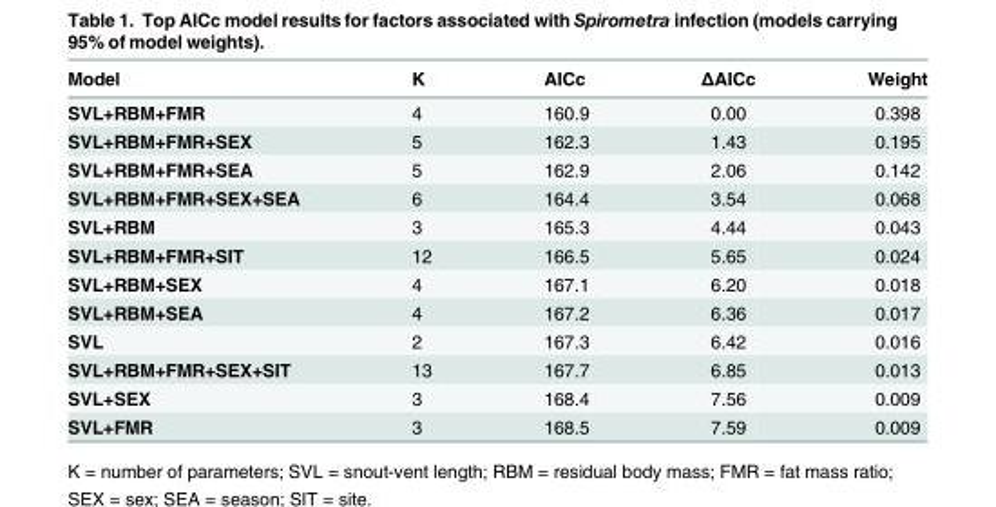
<table><thead><tr><td>Model</td><td>K</td><td>AICc</td><td>ΔAICc</td><td>Weight</td></tr></thead><tbody><tr><td>SVL+RBM+FMR</td><td>4</td><td>160.9</td><td>0.00</td><td>0.398</td></tr><tr><td>SVL+RBM+FMR+SEX</td><td>5</td><td>162.3</td><td>1.43</td><td>0.195</td></tr><tr><td>SVL+RBM+FMR+SEA</td><td>5</td><td>162.9</td><td>2.06</td><td>0.142</td></tr><tr><td>SVL+RBM+FMR+SEX+SEA</td><td>6</td><td>164.4</td><td>3.54</td><td>0.068</td></tr><tr><td>SVL+RBM</td><td>3</td><td>165.3</td><td>4.44</td><td>0.043</td></tr><tr><td>SVL+RBM+FMR+SIT</td><td>12</td><td>166.5</td><td>5.65</td><td>0.024</td></tr><tr><td>SVL+RBM+SEX</td><td>4</td><td>167.1</td><td>6.20</td><td>0.018</td></tr><tr><td>SVL+RBM+SEA</td><td>4</td><td>167.2</td><td>6.36</td><td>0.017</td></tr><tr><td>SVL</td><td>2</td><td>167.3</td><td>6.42</td><td>0.016</td></tr><tr><td>SVL+RBM+FMR+SEX+SIT</td><td>13</td><td>167.7</td><td>6.85</td><td>0.013</td></tr><tr><td>SVL+SEX</td><td>3</td><td>168.4</td><td>7.56</td><td>0.009</td></tr><tr><td>SVL+FMR</td><td>3</td><td>168.5</td><td>7.59</td><td>0.009</td></tr></tbody></table>